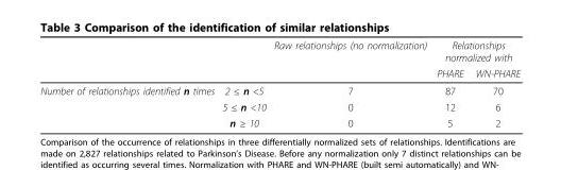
<table><thead><tr><td rowspan="2"></td><td rowspan="2"></td><td rowspan="2">Raw relationships (no normalization)</td><td colspan="2">Relationships normalized with</td></tr><tr><td>PHARE</td><td>WN-PHARE</td></tr></thead><tbody><tr><td rowspan="3">Number of relationships identified n times</td><td>2 ≤ n &lt;5</td><td>7</td><td>87</td><td>70</td></tr><tr><td>5 ≤ n &lt;10</td><td>0</td><td>12</td><td>6</td></tr><tr><td>n ≥ 10</td><td>0</td><td>5</td><td>2</td></tr></tbody></table>